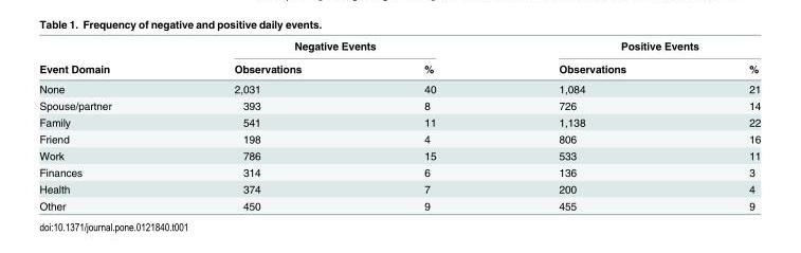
<table><thead><tr><td rowspan="2">Event Domain</td><td colspan="2">Negative Events</td><td colspan="2">Positive Events</td></tr><tr><td>Observations</td><td>%</td><td>Observations</td><td>%</td></tr></thead><tbody><tr><td>None</td><td>2,031</td><td>40</td><td>1,084</td><td>21</td></tr><tr><td>Spouse/partner</td><td>393</td><td>8</td><td>726</td><td>14</td></tr><tr><td>Family</td><td>541</td><td>11</td><td>1,138</td><td>22</td></tr><tr><td>Friend</td><td>198</td><td>4</td><td>806</td><td>16</td></tr><tr><td>Work</td><td>786</td><td>15</td><td>533</td><td>11</td></tr><tr><td>Finances</td><td>314</td><td>6</td><td>136</td><td>3</td></tr><tr><td>Health</td><td>374</td><td>7</td><td>200</td><td>4</td></tr><tr><td>Other</td><td>450</td><td>9</td><td>455</td><td>9</td></tr></tbody></table>